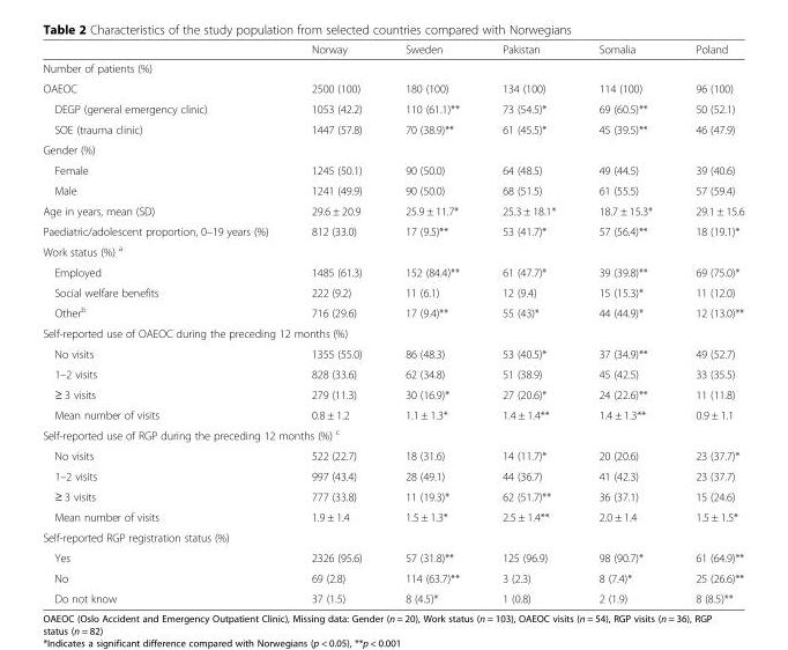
<table><thead><tr><td></td><td>Norway</td><td>Sweden</td><td>Pakistan</td><td>Somalia</td><td>Poland</td></tr></thead><tbody><tr><td colspan="6">Number of patients (%)</td></tr><tr><td>OAEOC</td><td>2500 (100)</td><td>180 (100)</td><td>134 (100)</td><td>114 (100)</td><td>96 (100)</td></tr><tr><td>DEGP (general emergency clinic)</td><td>1053 (42.2)</td><td>110 (61.1)**</td><td>73 (54.5)*</td><td>69 (60.5)**</td><td>50 (52.1)</td></tr><tr><td>SOE (trauma clinic)</td><td>1447 (57.8)</td><td>70 (38.9)**</td><td>61 (45.5)*</td><td>45 (39.5)**</td><td>46 (47.9)</td></tr><tr><td colspan="6">Gender (%)</td></tr><tr><td>Female</td><td>1245 (50.1)</td><td>90 (50.0)</td><td>64 (48.5)</td><td>49 (44.5)</td><td>39 (40.6)</td></tr><tr><td>Male</td><td>1241 (49.9)</td><td>90 (50.0)</td><td>68 (51.5)</td><td>61 (55.5)</td><td>57 (59.4)</td></tr><tr><td>Age in years, mean (SD)</td><td>29.6 ± 20.9</td><td>25.9 ± 11.7*</td><td>25.3 ± 18.1*</td><td>18.7 ± 15.3*</td><td>29.1 ± 15.6</td></tr><tr><td>Paediatric/adolescent proportion, 0–19 years (%)</td><td>812 (33.0)</td><td>17 (9.5)**</td><td>53 (41.7)*</td><td>57 (56.4)**</td><td>18 (19.1)*</td></tr><tr><td colspan="6">Work status (%) <sup>a</sup></td></tr><tr><td>Employed</td><td>1485 (61.3)</td><td>152 (84.4)**</td><td>61 (47.7)*</td><td>39 (39.8)**</td><td>69 (75.0)*</td></tr><tr><td>Social welfare benefits</td><td>222 (9.2)</td><td>11 (6.1)</td><td>12 (9.4)</td><td>15 (15.3)*</td><td>11 (12.0)</td></tr><tr><td>Other<sup>b</sup></td><td>716 (29.6)</td><td>17 (9.4)**</td><td>55 (43)*</td><td>44 (44.9)*</td><td>12 (13.0)**</td></tr><tr><td colspan="6">Self-reported use of OAEOC during the preceding 12 months (%)</td></tr><tr><td>No visits</td><td>1355 (55.0)</td><td>86 (48.3)</td><td>53 (40.5)*</td><td>37 (34.9)**</td><td>49 (52.7)</td></tr><tr><td>1–2 visits</td><td>828 (33.6)</td><td>62 (34.8)</td><td>51 (38.9)</td><td>45 (42.5)</td><td>33 (35.5)</td></tr><tr><td>≥ 3 visits</td><td>279 (11.3)</td><td>30 (16.9)*</td><td>27 (20.6)*</td><td>24 (22.6)**</td><td>11 (11.8)</td></tr><tr><td>Mean number of visits</td><td>0.8 ± 1.2</td><td>1.1 ± 1.3*</td><td>1.4 ± 1.4**</td><td>1.4 ± 1.3**</td><td>0.9 ± 1.1</td></tr><tr><td colspan="6">Self-reported use of RGP during the preceding 12 months (%) <sup>c</sup></td></tr><tr><td>No visits</td><td>522 (22.7)</td><td>18 (31.6)</td><td>14 (11.7)*</td><td>20 (20.6)</td><td>23 (37.7)*</td></tr><tr><td>1–2 visits</td><td>997 (43.4)</td><td>28 (49.1)</td><td>44 (36.7)</td><td>41 (42.3)</td><td>23 (37.7)</td></tr><tr><td>≥ 3 visits</td><td>777 (33.8)</td><td>11 (19.3)*</td><td>62 (51.7)**</td><td>36 (37.1)</td><td>15 (24.6)</td></tr><tr><td>Mean number of visits</td><td>1.9 ± 1.4</td><td>1.5 ± 1.3*</td><td>2.5 ± 1.4**</td><td>2.0 ± 1.4</td><td>1.5 ± 1.5*</td></tr><tr><td colspan="6">Self-reported RGP registration status (%)</td></tr><tr><td>Yes</td><td>2326 (95.6)</td><td>57 (31.8)**</td><td>125 (96.9)</td><td>98 (90.7)*</td><td>61 (64.9)**</td></tr><tr><td>No</td><td>69 (2.8)</td><td>114 (63.7)**</td><td>3 (2.3)</td><td>8 (7.4)*</td><td>25 (26.6)**</td></tr><tr><td>Do not know</td><td>37 (1.5)</td><td>8 (4.5)*</td><td>1 (0.8)</td><td>2 (1.9)</td><td>8 (8.5)**</td></tr></tbody></table>